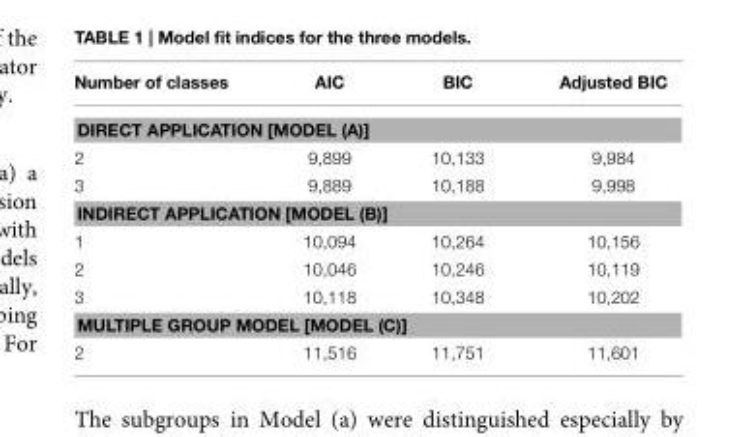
<table><thead><tr><td>Number of classes</td><td>AIC</td><td>BIC</td><td>Adjusted BIC</td></tr></thead><tbody><tr><td colspan="4">DIRECT APPLICATION [MODEL (A)]</td></tr><tr><td>2</td><td>9,899</td><td>10,133</td><td>9,984</td></tr><tr><td>3</td><td>9,889</td><td>10,188</td><td>9,998</td></tr><tr><td colspan="4">INDIRECT APPLICATION [MODEL (B)]</td></tr><tr><td>1</td><td>10,094</td><td>10,264</td><td>10,156</td></tr><tr><td>2</td><td>10,046</td><td>10,246</td><td>10,119</td></tr><tr><td>3</td><td>10,118</td><td>10,348</td><td>10,202</td></tr><tr><td colspan="4">MULTIPLE GROUP MODEL [MODEL (C)]</td></tr><tr><td>2</td><td>11,516</td><td>11,751</td><td>11,601</td></tr></tbody></table>